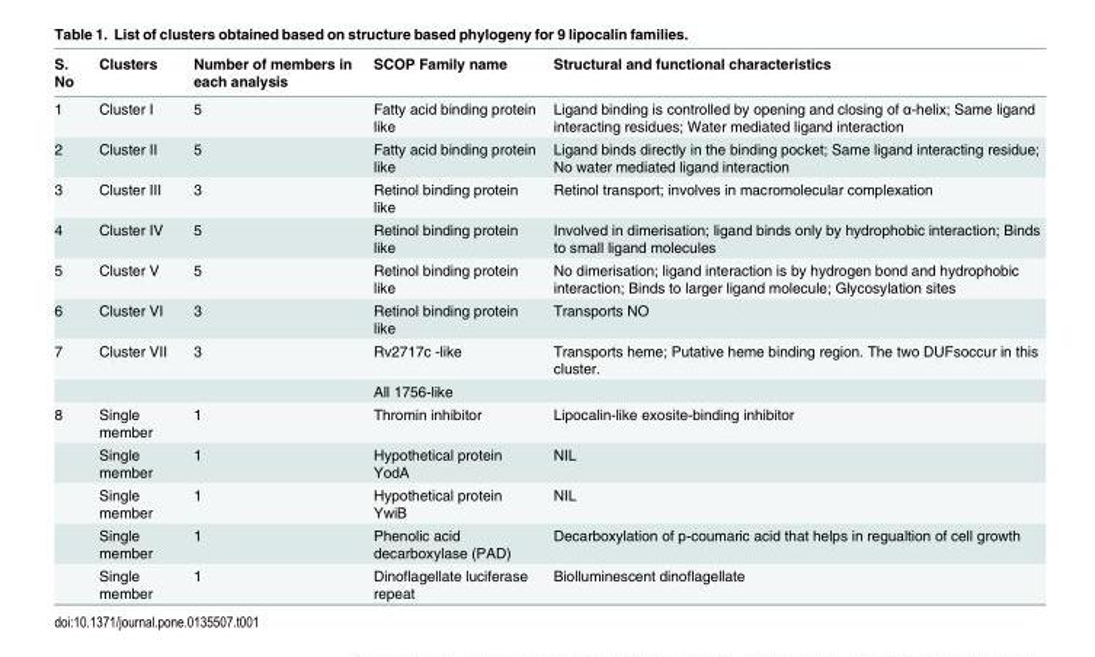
<table><thead><tr><td>S. No</td><td>Clusters</td><td>Number of members in each analysis</td><td>SCOP Family name</td><td>Structural and functional characteristics</td></tr></thead><tbody><tr><td>1</td><td>Cluster I</td><td>5</td><td>Fatty acid binding protein like</td><td>Ligand binding is controlled by opening and closing of α-helix; Same ligand interacting residues; Water mediated ligand interaction</td></tr><tr><td>2</td><td>Cluster II</td><td>5</td><td>Fatty acid binding protein like</td><td>Ligand binds directly in the binding pocket; Same ligand interacting residue; No water mediated ligand interaction</td></tr><tr><td>3</td><td>Cluster III</td><td>3</td><td>Retinol binding protein like</td><td>Retinol transport; involves in macromolecular complexation</td></tr><tr><td>4</td><td>Cluster IV</td><td>5</td><td>Retinol binding protein like</td><td>Involved in dimerisation; ligand binds only by hydrophobic interaction; Binds to small ligand molecules</td></tr><tr><td>5</td><td>Cluster V</td><td>5</td><td>Retinol binding protein like</td><td>No dimerisation; ligand interaction is by hydrogen bond and hydrophobic interaction; Binds to larger ligand molecule; Glycosylation sites</td></tr><tr><td>6</td><td>Cluster VI</td><td>3</td><td>Retinol binding protein like</td><td>Transports NO</td></tr><tr><td rowspan="2">7</td><td>Cluster VII</td><td>3</td><td>Rv2717c -like</td><td>Transports heme; Putative heme binding region. The two DUFsoccur in this cluster.</td></tr><tr><td></td><td></td><td>All 1756-like</td><td></td></tr><tr><td rowspan="5">8</td><td>Single member</td><td>1</td><td>Thromin inhibitor</td><td>Lipocalin-like exosite-binding inhibitor</td></tr><tr><td>Single member</td><td>1</td><td>Hypothetical protein YodA</td><td>NIL</td></tr><tr><td>Single member</td><td>1</td><td>Hypothetical protein YwiB</td><td>NIL</td></tr><tr><td>Single member</td><td>1</td><td>Phenolic acid decarboxylase (PAD)</td><td>Decarboxylation of p-coumaric acid that helps in regualtion of cell growth</td></tr><tr><td>Single member</td><td>1</td><td>Dinoflagellate luciferase repeat</td><td>Biolluminescent dinoflagellate</td></tr></tbody></table>